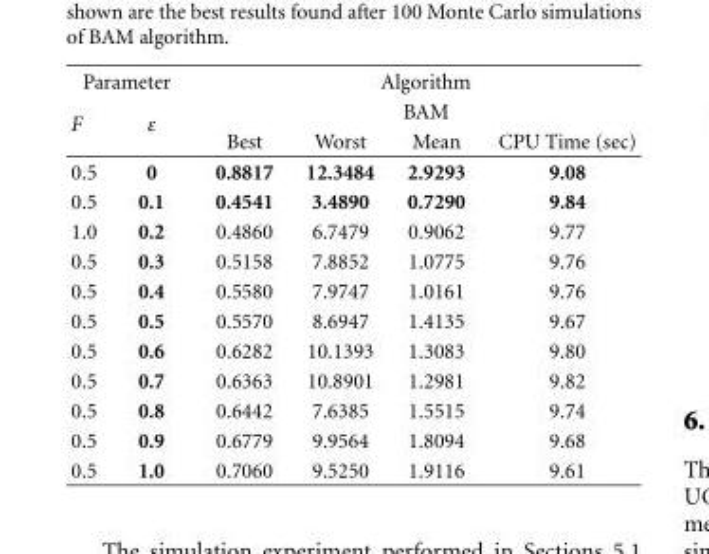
<table><thead><tr><td colspan="2">Parameter</td><td rowspan="2" colspan="4">Algorithm BAM</td></tr><tr><td rowspan="2">F</td><td rowspan="2">ε</td></tr><tr><td>Best</td><td>Worst</td><td>Mean</td><td>CPU Time (sec)</td></tr></thead><tbody><tr><td>0.5</td><td>0</td><td>0.8817</td><td>12.3484</td><td>2.9293</td><td>9.08</td></tr><tr><td>0.5</td><td>0.1</td><td>0.4541</td><td>3.4890</td><td>0.7290</td><td>9.84</td></tr><tr><td>1.0</td><td>0.2</td><td>0.4860</td><td>6.7479</td><td>0.9062</td><td>9.77</td></tr><tr><td>0.5</td><td>0.3</td><td>0.5158</td><td>7.8852</td><td>1.0775</td><td>9.76</td></tr><tr><td>0.5</td><td>0.4</td><td>0.5580</td><td>7.9747</td><td>1.0161</td><td>9.76</td></tr><tr><td>0.5</td><td>0.5</td><td>0.5570</td><td>8.6947</td><td>1.4135</td><td>9.67</td></tr><tr><td>0.5</td><td>0.6</td><td>0.6282</td><td>10.1393</td><td>1.3083</td><td>9.80</td></tr><tr><td>0.5</td><td>0.7</td><td>0.6363</td><td>10.8901</td><td>1.2981</td><td>9.82</td></tr><tr><td>0.5</td><td>0.8</td><td>0.6442</td><td>7.6385</td><td>1.5515</td><td>9.74</td></tr><tr><td>0.5</td><td>0.9</td><td>0.6779</td><td>9.9564</td><td>1.8094</td><td>9.68</td></tr><tr><td>0.5</td><td>1.0</td><td>0.7060</td><td>9.5250</td><td>1.9116</td><td>9.61</td></tr></tbody></table>